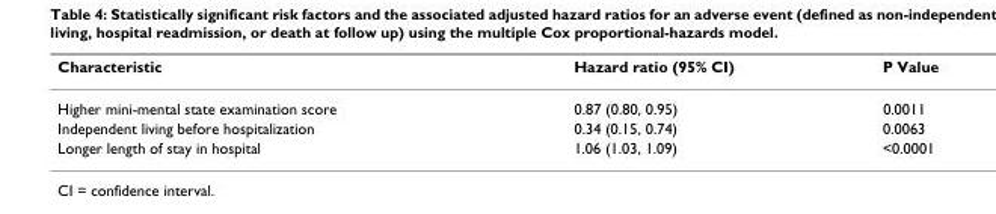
<table><thead><tr><td>Characteristic</td><td>Hazard ratio (95% CI)</td><td>P Value</td></tr></thead><tbody><tr><td>Higher mini-mental state examination score</td><td>0.87 (0.80, 0.95)</td><td>0.0011</td></tr><tr><td>Independent living before hospitalization</td><td>0.34 (0.15, 0.74)</td><td>0.0063</td></tr><tr><td>Longer length of stay in hospital</td><td>1.06 (1.03, 1.09)</td><td>&lt;0.0001</td></tr></tbody></table>